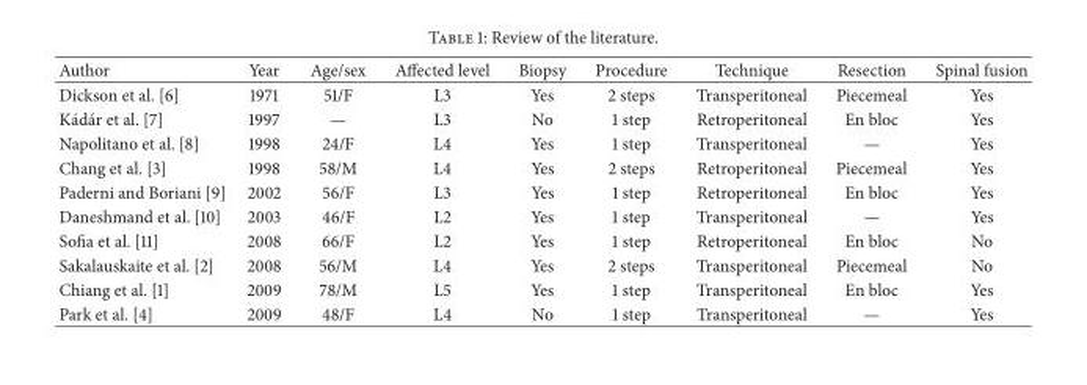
<table><thead><tr><td>Author</td><td>Year</td><td>Age/sex</td><td>Affected level</td><td>Biopsy</td><td>Procedure</td><td>Technique</td><td>Resection</td><td>Spinal fusion</td></tr></thead><tbody><tr><td>Dickson et al. [6]</td><td>1971</td><td>51/F</td><td>L3</td><td>Yes</td><td>2 steps</td><td>Transperitoneal</td><td>Piecemeal</td><td>Yes</td></tr><tr><td>K´ad´ar et al. [7]</td><td>1997</td><td>—</td><td>L3</td><td>No</td><td>1 step</td><td>Retroperitoneal</td><td>En bloc</td><td>Yes</td></tr><tr><td>Napolitano et al. [8]</td><td>1998</td><td>24/F</td><td>L4</td><td>Yes</td><td>1 step</td><td>Transperitoneal</td><td>—</td><td>Yes</td></tr><tr><td>Chang et al. [3]</td><td>1998</td><td>58/M</td><td>L4</td><td>Yes</td><td>2 steps</td><td>Retroperitoneal</td><td>Piecemeal</td><td>Yes</td></tr><tr><td>Paderni and Boriani [9]</td><td>2002</td><td>56/F</td><td>L3</td><td>Yes</td><td>1 step</td><td>Retroperitoneal</td><td>En bloc</td><td>Yes</td></tr><tr><td>Daneshmand et al. [10]</td><td>2003</td><td>46/F</td><td>L2</td><td>Yes</td><td>1 step</td><td>Transperitoneal</td><td>—</td><td>Yes</td></tr><tr><td>Sofia et al. [11]</td><td>2008</td><td>66/F</td><td>L2</td><td>Yes</td><td>1 step</td><td>Retroperitoneal</td><td>En bloc</td><td>No</td></tr><tr><td>Sakalauskaite et al. [2]</td><td>2008</td><td>56/M</td><td>L4</td><td>Yes</td><td>2 steps</td><td>Transperitoneal</td><td>Piecemeal</td><td>No</td></tr><tr><td>Chiang et al. [1]</td><td>2009</td><td>78/M</td><td>L5</td><td>Yes</td><td>1 step</td><td>Transperitoneal</td><td>En bloc</td><td>Yes</td></tr><tr><td>Park et al. [4]</td><td>2009</td><td>48/F</td><td>L4</td><td>No</td><td>1 step</td><td>Transperitoneal</td><td>—</td><td>Yes</td></tr></tbody></table>